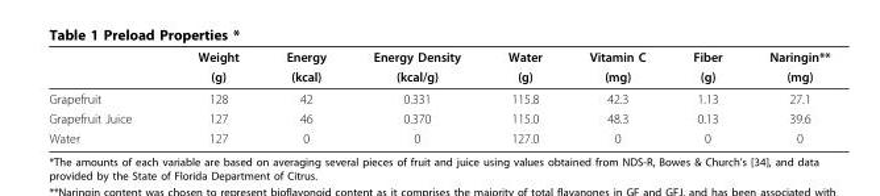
<table><thead><tr><td rowspan="2"></td><td rowspan="2">Weight (g)</td><td rowspan="2">Energy (kcal)</td><td rowspan="2">Energy Density (kcal/g)</td><td rowspan="2">Water (g)</td><td rowspan="2">Vitamin C (mg)</td><td rowspan="2">Fiber (g)</td><td rowspan="2">Naringin** (mg)</td></tr><tr></tr></thead><tbody><tr><td>Grapefruit</td><td>128</td><td>42</td><td>0.331</td><td>115.8</td><td>42.3</td><td>1.13</td><td>27.1</td></tr><tr><td>Grapefruit Juice</td><td>127</td><td>46</td><td>0.370</td><td>115.0</td><td>48.3</td><td>0.13</td><td>39.6</td></tr><tr><td>Water</td><td>127</td><td>0</td><td>0</td><td>127.0</td><td>0</td><td>0</td><td>0</td></tr></tbody></table>